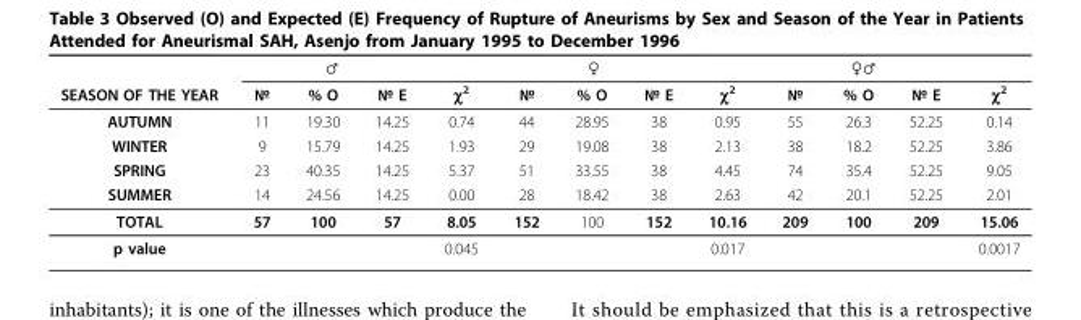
<table><thead><tr><td rowspan="2">SEASON OF THE YEAR</td><td colspan="3">♂</td><td rowspan="2">χ<sup>2</sup></td><td colspan="3">♀</td><td rowspan="2">χ<sup>2</sup></td><td colspan="3">♀♂</td><td rowspan="2">χ<sup>2</sup></td></tr><tr><td>№</td><td>% O</td><td>№ E</td><td>№</td><td>% O</td><td>№ E</td><td>№</td><td>% O</td><td>№ E</td></tr></thead><tbody><tr><td>AUTUMN</td><td>11</td><td>19.30</td><td>14.25</td><td>0.74</td><td>44</td><td>28.95</td><td>38</td><td>0.95</td><td>55</td><td>26.3</td><td>52.25</td><td>0.14</td></tr><tr><td>WINTER</td><td>9</td><td>15.79</td><td>14.25</td><td>1.93</td><td>29</td><td>19.08</td><td>38</td><td>2.13</td><td>38</td><td>18.2</td><td>52.25</td><td>3.86</td></tr><tr><td>SPRING</td><td>23</td><td>40.35</td><td>14.25</td><td>5.37</td><td>51</td><td>33.55</td><td>38</td><td>4.45</td><td>74</td><td>35.4</td><td>52.25</td><td>9.05</td></tr><tr><td>SUMMER</td><td>14</td><td>24.56</td><td>14.25</td><td>0.00</td><td>28</td><td>18.42</td><td>38</td><td>2.63</td><td>42</td><td>20.1</td><td>52.25</td><td>2.01</td></tr><tr><td>TOTAL</td><td>57</td><td>100</td><td>57</td><td>8.05</td><td>152</td><td>100</td><td>152</td><td>10.16</td><td>209</td><td>100</td><td>209</td><td>15.06</td></tr><tr><td>p value</td><td></td><td></td><td></td><td>0.045</td><td></td><td></td><td></td><td>0.017</td><td></td><td></td><td></td><td>0.0017</td></tr></tbody></table>